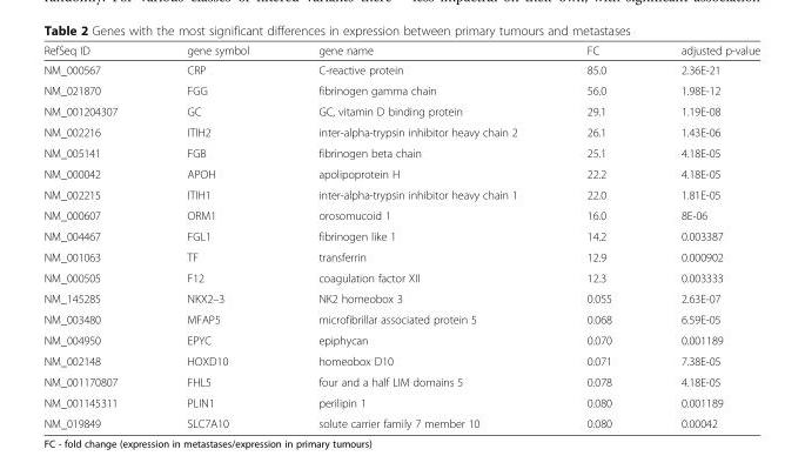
<table><thead><tr><td>RefSeq ID</td><td>gene symbol</td><td>gene name</td><td>FC</td><td>adjusted p-value</td></tr></thead><tbody><tr><td>NM_000567</td><td>CRP</td><td>C-reactive protein</td><td>85.0</td><td>2.36E-21</td></tr><tr><td>NM_021870</td><td>FGG</td><td>fibrinogen gamma chain</td><td>56.0</td><td>1.98E-12</td></tr><tr><td>NM_001204307</td><td>GC</td><td>GC, vitamin D binding protein</td><td>29.1</td><td>1.19E-08</td></tr><tr><td>NM_002216</td><td>ITIH2</td><td>inter-alpha-trypsin inhibitor heavy chain 2</td><td>26.1</td><td>1.43E-06</td></tr><tr><td>NM_005141</td><td>FGB</td><td>fibrinogen beta chain</td><td>25.1</td><td>4.18E-05</td></tr><tr><td>NM_000042</td><td>APOH</td><td>apolipoprotein H</td><td>22.2</td><td>4.18E-05</td></tr><tr><td>NM_002215</td><td>ITIH1</td><td>inter-alpha-trypsin inhibitor heavy chain 1</td><td>22.0</td><td>1.81E-05</td></tr><tr><td>NM_000607</td><td>ORM1</td><td>orosomucoid 1</td><td>16.0</td><td>8E-06</td></tr><tr><td>NM_004467</td><td>FGL1</td><td>fibrinogen like 1</td><td>14.2</td><td>0.003387</td></tr><tr><td>NM_001063</td><td>TF</td><td>transferrin</td><td>12.9</td><td>0.000902</td></tr><tr><td>NM_000505</td><td>F12</td><td>coagulation factor XII</td><td>12.3</td><td>0.003333</td></tr><tr><td>NM_145285</td><td>NKX2–3</td><td>NK2 homeobox 3</td><td>0.055</td><td>2.63E-07</td></tr><tr><td>NM_003480</td><td>MFAP5</td><td>microfibrillar associated protein 5</td><td>0.068</td><td>6.59E-05</td></tr><tr><td>NM_004950</td><td>EPYC</td><td>epiphycan</td><td>0.070</td><td>0.001189</td></tr><tr><td>NM_002148</td><td>HOXD10</td><td>homeobox D10</td><td>0.071</td><td>7.38E-05</td></tr><tr><td>NM_001170807</td><td>FHL5</td><td>four and a half LIM domains 5</td><td>0.078</td><td>4.18E-05</td></tr><tr><td>NM_001145311</td><td>PLIN1</td><td>perilipin 1</td><td>0.080</td><td>0.001189</td></tr><tr><td>NM_019849</td><td>SLC7A10</td><td>solute carrier family 7 member 10</td><td>0.080</td><td>0.00042</td></tr></tbody></table>